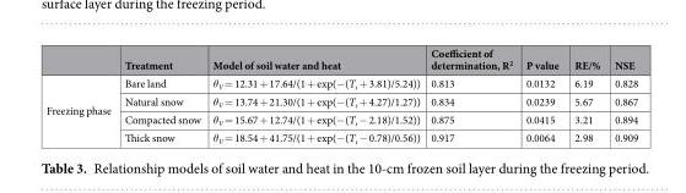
<table><thead><tr><td></td><td>Treatment</td><td>Model of soil water and heat</td><td>Coefficient of determination, R<sup>2</sup></td><td>P value</td><td>RE/%</td><td>NSE</td></tr></thead><tbody><tr><td rowspan="4">Freezing phase</td><td>Bare land</td><td>θ<sub>V</sub> = 12.31 + 17.64/(1 + exp(−(T<sub>s</sub> + 3.81)/5.24))</td><td>0.813</td><td>0.0132</td><td>6.19</td><td>0.828</td></tr><tr><td>Natural snow</td><td>θ<sub>V</sub> = 13.74 + 21.30/(1 + exp(−(T<sub>s</sub> + 4.27)/1.27))</td><td>0.834</td><td>0.0239</td><td>5.67</td><td>0.867</td></tr><tr><td>Compacted snow</td><td>θ<sub>V</sub> = 15.67 + 12.74/(1 + exp(−(T<sub>s</sub> − 2.18)/1.52))</td><td>0.875</td><td>0.0415</td><td>3.21</td><td>0.894</td></tr><tr><td>Thick snow</td><td>θ<sub>V</sub> = 18.54 + 41.75/(1 + exp(−(T<sub>s</sub> − 0.78)/0.56))</td><td>0.917</td><td>0.0064</td><td>2.98</td><td>0.909</td></tr></tbody></table>